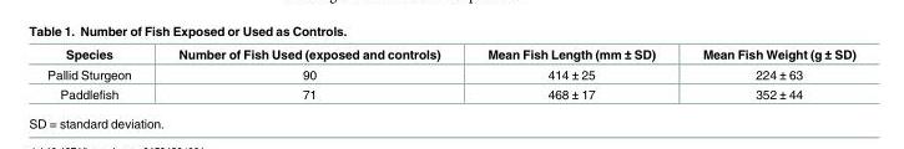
<table><thead><tr><td>Species</td><td>Number of Fish Used (exposed and controls)</td><td>Mean Fish Length (mm ± SD)</td><td>Mean Fish Weight (g ± SD)</td></tr></thead><tbody><tr><td>Pallid Sturgeon</td><td>90</td><td>414 ± 25</td><td>224 ± 63</td></tr><tr><td>Paddlefish</td><td>71</td><td>468 ± 17</td><td>352 ± 44</td></tr></tbody></table>